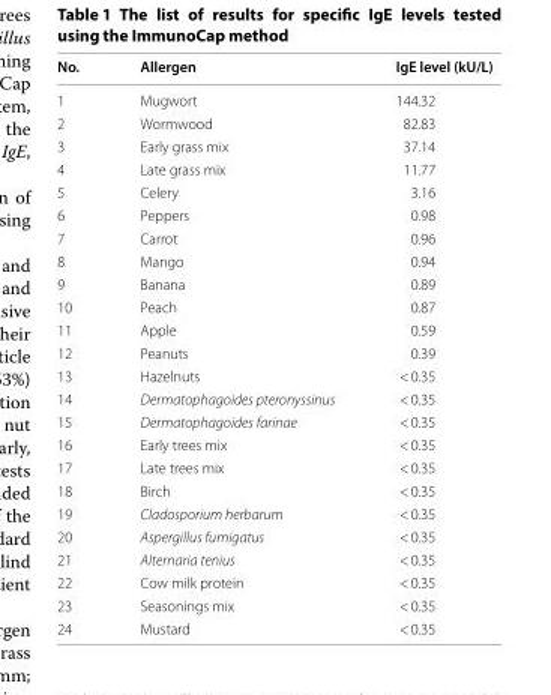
<table><thead><tr><td>No.</td><td>Allergen</td><td>IgE level (kU/L)</td></tr></thead><tbody><tr><td>1</td><td>Mugwort</td><td>144.32</td></tr><tr><td>2</td><td>Wormwood</td><td>82.83</td></tr><tr><td>3</td><td>Early grass mix</td><td>37.14</td></tr><tr><td>4</td><td>Late grass mix</td><td>11.77</td></tr><tr><td>5</td><td>Celery</td><td>3.16</td></tr><tr><td>6</td><td>Peppers</td><td>0.98</td></tr><tr><td>7</td><td>Carrot</td><td>0.96</td></tr><tr><td>8</td><td>Mango</td><td>0.94</td></tr><tr><td>9</td><td>Banana</td><td>0.89</td></tr><tr><td>10</td><td>Peach</td><td>0.87</td></tr><tr><td>11</td><td>Apple</td><td>0.59</td></tr><tr><td>12</td><td>Peanuts</td><td>0.39</td></tr><tr><td>13</td><td>Hazelnuts</td><td>&lt; 0.35</td></tr><tr><td>14</td><td>Dermatophagoides pteronyssinus</td><td>&lt; 0.35</td></tr><tr><td>15</td><td>Dermatophagoides farinae</td><td>&lt; 0.35</td></tr><tr><td>16</td><td>Early trees mix</td><td>&lt; 0.35</td></tr><tr><td>17</td><td>Late trees mix</td><td>&lt; 0.35</td></tr><tr><td>18</td><td>Birch</td><td>&lt; 0.35</td></tr><tr><td>19</td><td>Cladosporium herbarum</td><td>&lt; 0.35</td></tr><tr><td>20</td><td>Aspergillus fumigatus</td><td>&lt; 0.35</td></tr><tr><td>21</td><td>Alternaria tenius</td><td>&lt; 0.35</td></tr><tr><td>22</td><td>Cow milk protein</td><td>&lt; 0.35</td></tr><tr><td>23</td><td>Seasonings mix</td><td>&lt; 0.35</td></tr><tr><td>24</td><td>Mustard</td><td>&lt; 0.35</td></tr></tbody></table>